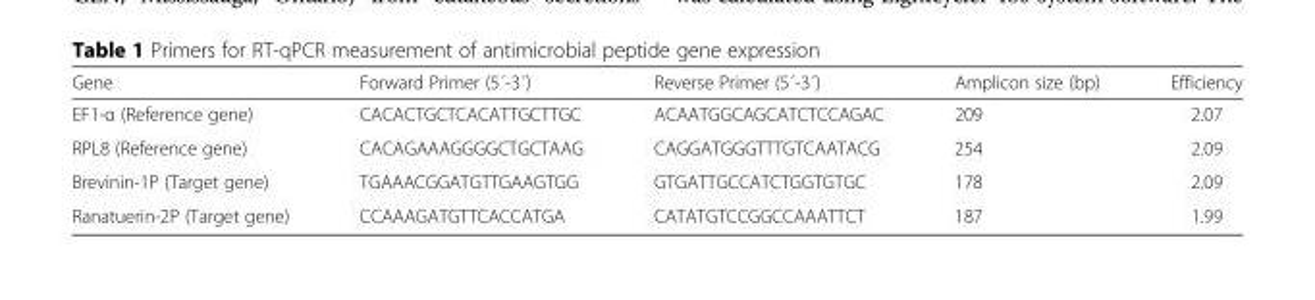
<table><thead><tr><td>Gene</td><td>Forward Primer (5´-3´)</td><td>Reverse Primer (5´-3´)</td><td>Amplicon size (bp)</td><td>Efficiency</td></tr></thead><tbody><tr><td>EF1-α (Reference gene)</td><td>CACACTGCTCACATTGCTTGC</td><td>ACAATGGCAGCATCTCCAGAC</td><td>209</td><td>2.07</td></tr><tr><td>RPL8 (Reference gene)</td><td>CACAGAAAGGGGCTGCTAAG</td><td>CAGGATGGGTTTGTCAATACG</td><td>254</td><td>2.09</td></tr><tr><td>Brevinin-1P (Target gene)</td><td>TGAAACGGATGTTGAAGTGG</td><td>GTGATTGCCATCTGGTGTGC</td><td>178</td><td>2.09</td></tr><tr><td>Ranatuerin-2P (Target gene)</td><td>CCAAAGATGTTCACCATGA</td><td>CATATGTCCGGCCAAATTCT</td><td>187</td><td>1.99</td></tr></tbody></table>